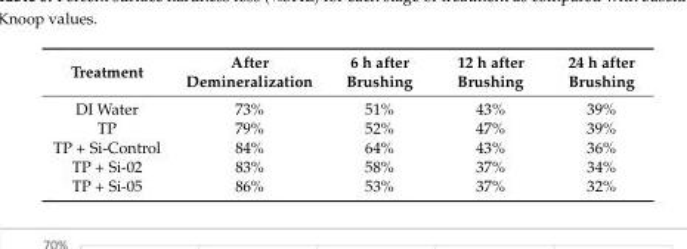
<table><thead><tr><td>Treatment</td><td>After Demineralization</td><td>6 h after Brushing</td><td>12 h after Brushing</td><td>24 h after Brushing</td></tr></thead><tbody><tr><td>DI Water</td><td>73%</td><td>51%</td><td>43%</td><td>39%</td></tr><tr><td>TP</td><td>79%</td><td>52%</td><td>47%</td><td>39%</td></tr><tr><td>TP + Si-Control</td><td>84%</td><td>64%</td><td>43%</td><td>36%</td></tr><tr><td>TP + Si-02</td><td>83%</td><td>58%</td><td>37%</td><td>34%</td></tr><tr><td>TP + Si-05</td><td>86%</td><td>53%</td><td>37%</td><td>32%</td></tr></tbody></table>